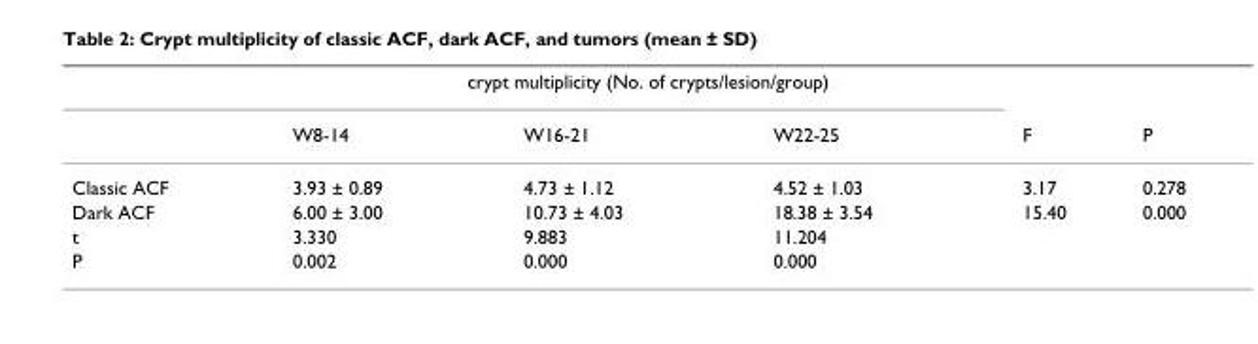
<table><thead><tr><td rowspan="2"></td><td colspan="3">crypt multiplicity (No. of crypts/lesion/group)</td><td rowspan="2">F</td><td rowspan="2">P</td></tr><tr><td>W8-14</td><td>W16-21</td><td>W22-25</td></tr></thead><tbody><tr><td>Classic ACF</td><td>3.93 ± 0.89</td><td>4.73 ± 1.12</td><td>4.52 ± 1.03</td><td>3.17</td><td>0.278</td></tr><tr><td>Dark ACF</td><td>6.00 ± 3.00</td><td>10.73 ± 4.03</td><td>18.38 ± 3.54</td><td>15.40</td><td>0.000</td></tr><tr><td>t</td><td>3.330</td><td>9.883</td><td>11.204</td><td></td><td></td></tr><tr><td>P</td><td>0.002</td><td>0.000</td><td>0.000</td><td></td><td></td></tr></tbody></table>